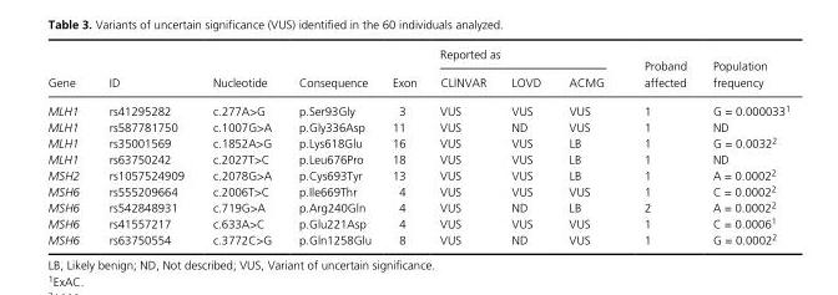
<table><thead><tr><td rowspan="2">Gene</td><td rowspan="2">ID</td><td rowspan="2">Nucleotide</td><td rowspan="2">Consequence</td><td rowspan="2">Exon</td><td colspan="3">Reported as</td><td rowspan="2">Proband affected</td><td rowspan="2">Population frequency</td></tr><tr><td>CLINVAR</td><td>LOVD</td><td>ACMG</td></tr></thead><tbody><tr><td>MLH1</td><td>rs41295282</td><td>c.277A&gt;G</td><td>p.Ser93Gly</td><td>3</td><td>VUS</td><td>VUS</td><td>VUS</td><td>1</td><td>G = 0.0000331</td></tr><tr><td>MLH1</td><td>rs587781750</td><td>c.1007G&gt;A</td><td>p.Gly336Asp</td><td>11</td><td>VUS</td><td>ND</td><td>VUS</td><td>1</td><td>ND</td></tr><tr><td>MLH1</td><td>rs35001569</td><td>c.1852A&gt;G</td><td>p.Lys618Glu</td><td>16</td><td>VUS</td><td>VUS</td><td>LB</td><td>1</td><td>G = 0.00322</td></tr><tr><td>MLH1</td><td>rs63750242</td><td>c.2027T&gt;C</td><td>p.Leu676Pro</td><td>18</td><td>VUS</td><td>VUS</td><td>LB</td><td>1</td><td>ND</td></tr><tr><td>MSH2</td><td>rs1057524909</td><td>c.2078G&gt;A</td><td>p.Cys693Tyr</td><td>13</td><td>VUS</td><td>VUS</td><td>LB</td><td>1</td><td>A = 0.00022</td></tr><tr><td>MSH6</td><td>rs555209664</td><td>c.2006T&gt;C</td><td>p.Ile669Thr</td><td>4</td><td>VUS</td><td>VUS</td><td>VUS</td><td>1</td><td>C = 0.00022</td></tr><tr><td>MSH6</td><td>rs542848931</td><td>c.719G&gt;A</td><td>p.Arg240Gln</td><td>4</td><td>VUS</td><td>ND</td><td>LB</td><td>2</td><td>A = 0.00022</td></tr><tr><td>MSH6</td><td>rs41557217</td><td>c.633A&gt;C</td><td>p.Glu221Asp</td><td>4</td><td>VUS</td><td>VUS</td><td>VUS</td><td>1</td><td>C = 0.00061</td></tr><tr><td>MSH6</td><td>rs63750554</td><td>c.3772C&gt;G</td><td>p.Gln1258Glu</td><td>8</td><td>VUS</td><td>ND</td><td>VUS</td><td>1</td><td>G = 0.00022</td></tr></tbody></table>